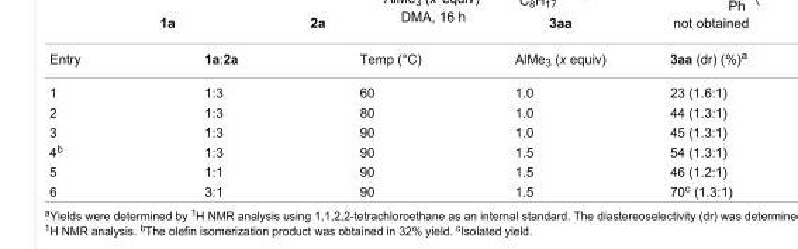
<table><tbody><tr><td>Entry</td><td>1a:2a</td><td>Temp (°C)</td><td>AlMe<sub>3</sub> (x equiv)</td><td>3aa (dr) (%)<sup>a</sup></td></tr><tr><td>1</td><td>1:3</td><td>60</td><td>1.0</td><td>23 (1.6:1)</td></tr><tr><td>2</td><td>1:3</td><td>80</td><td>1.0</td><td>44 (1.3:1)</td></tr><tr><td>3</td><td>1:3</td><td>90</td><td>1.0</td><td>45 (1.3:1)</td></tr><tr><td>4<sup>b</sup></td><td>1:3</td><td>90</td><td>1.5</td><td>54 (1.3:1)</td></tr><tr><td>5</td><td>1:1</td><td>90</td><td>1.5</td><td>46 (1.2:1)</td></tr><tr><td>6</td><td>3:1</td><td>90</td><td>1.5</td><td>70<sup>c</sup> (1.3:1)</td></tr></tbody></table>